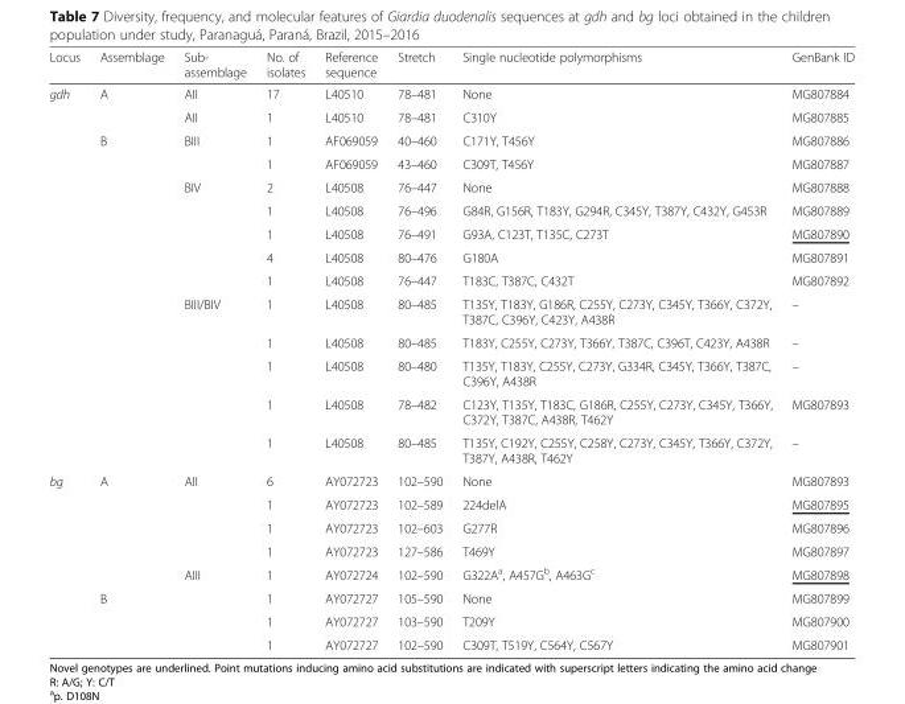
<table><thead><tr><td>Locus</td><td>Assemblage</td><td>Sub- assemblage</td><td>No. of isolates</td><td>Reference sequence</td><td>Stretch</td><td>Single nucleotide polymorphisms</td><td>GenBank ID</td></tr></thead><tbody><tr><td rowspan="14">gdh</td><td rowspan="2">A</td><td>AII</td><td>17</td><td>L40510</td><td>78–481</td><td>None</td><td>MG807884</td></tr><tr><td>AII</td><td>1</td><td>L40510</td><td>78–481</td><td>C310Y</td><td>MG807885</td></tr><tr><td rowspan="12">B</td><td rowspan="2">BIII</td><td>1</td><td>AF069059</td><td>40–460</td><td>C171Y, T456Y</td><td>MG807886</td></tr><tr><td>1</td><td>AF069059</td><td>43–460</td><td>C309T, T456Y</td><td>MG807887</td></tr><tr><td rowspan="5">BIV</td><td>2</td><td>L40508</td><td>76–447</td><td>None</td><td>MG807888</td></tr><tr><td>1</td><td>L40508</td><td>76–496</td><td>G84R, G156R, T183Y, G294R, C345Y, T387Y, C432Y, G453R</td><td>MG807889</td></tr><tr><td>1</td><td>L40508</td><td>76–491</td><td>G93A, C123T, T135C, C273T</td><td>MG807890</td></tr><tr><td>4</td><td>L40508</td><td>80–476</td><td>G180A</td><td>MG807891</td></tr><tr><td>1</td><td>L40508</td><td>76–447</td><td>T183C, T387C, C432T</td><td>MG807892</td></tr><tr><td rowspan="5">BIII/BIV</td><td>1</td><td>L40508</td><td>80–485</td><td>T135Y, T183Y, G186R, C255Y, C273Y, C345Y, T366Y, C372Y, T387C, C396Y, C423Y, A438R</td><td>–</td></tr><tr><td>1</td><td>L40508</td><td>80–485</td><td>T183Y, C255Y, C273Y, T366Y, T387C, C396T, C423Y, A438R</td><td>–</td></tr><tr><td>1</td><td>L40508</td><td>80–480</td><td>T135Y, T183Y, C255Y, C273Y, G334R, C345Y, T366Y, T387C, C396Y, A438R</td><td>–</td></tr><tr><td>1</td><td>L40508</td><td>78–482</td><td>C123Y, T135Y, T183C, G186R, C255Y, C273Y, C345Y, T366Y, C372Y, T387C, A438R, T462Y</td><td>MG807893</td></tr><tr><td>1</td><td>L40508</td><td>80–485</td><td>T135Y, C192Y, C255Y, C258Y, C273Y, C345Y, T366Y, C372Y, T387Y, A438R, T462Y</td><td>–</td></tr><tr><td rowspan="8">bg</td><td rowspan="5">A</td><td rowspan="4">AII</td><td>6</td><td>AY072723</td><td>102–590</td><td>None</td><td>MG807893</td></tr><tr><td>1</td><td>AY072723</td><td>102–589</td><td>224delA</td><td>MG807895</td></tr><tr><td>1</td><td>AY072723</td><td>102–603</td><td>G277R</td><td>MG807896</td></tr><tr><td>1</td><td>AY072723</td><td>127–586</td><td>T469Y</td><td>MG807897</td></tr><tr><td rowspan="3">AIII</td><td>1</td><td>AY072724</td><td>102–590</td><td>G322A<sup>a</sup>, A457G<sup>b</sup>, A463G<sup>c</sup></td><td>MG807898</td></tr><tr><td rowspan="3">B</td><td>1</td><td>AY072727</td><td>105–590</td><td>None</td><td>MG807899</td></tr><tr><td>1</td><td>AY072727</td><td>103–590</td><td>T209Y</td><td>MG807900</td></tr><tr><td></td><td>1</td><td>AY072727</td><td>102–590</td><td>C309T, T519Y, C564Y, C567Y</td><td>MG807901</td></tr></tbody></table>